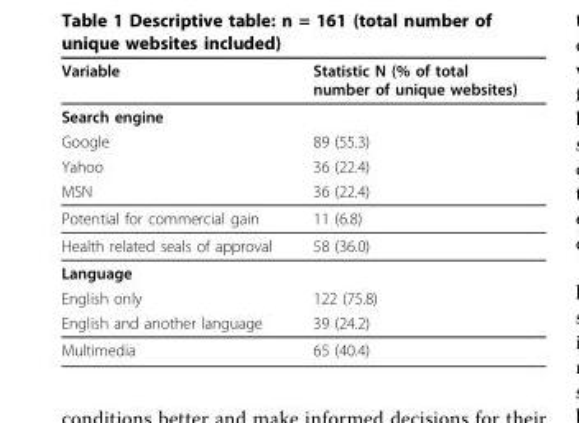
<table><thead><tr><td>Variable</td><td>Statistic N (% of total number of unique websites)</td></tr></thead><tbody><tr><td colspan="2">Search engine</td></tr><tr><td>Google</td><td>89 (55.3)</td></tr><tr><td>Yahoo</td><td>36 (22.4)</td></tr><tr><td>MSN</td><td>36 (22.4)</td></tr><tr><td>Potential for commercial gain</td><td>11 (6.8)</td></tr><tr><td>Health related seals of approval</td><td>58 (36.0)</td></tr><tr><td colspan="2">Language</td></tr><tr><td>English only</td><td>122 (75.8)</td></tr><tr><td>English and another language</td><td>39 (24.2)</td></tr><tr><td>Multimedia</td><td>65 (40.4)</td></tr></tbody></table>